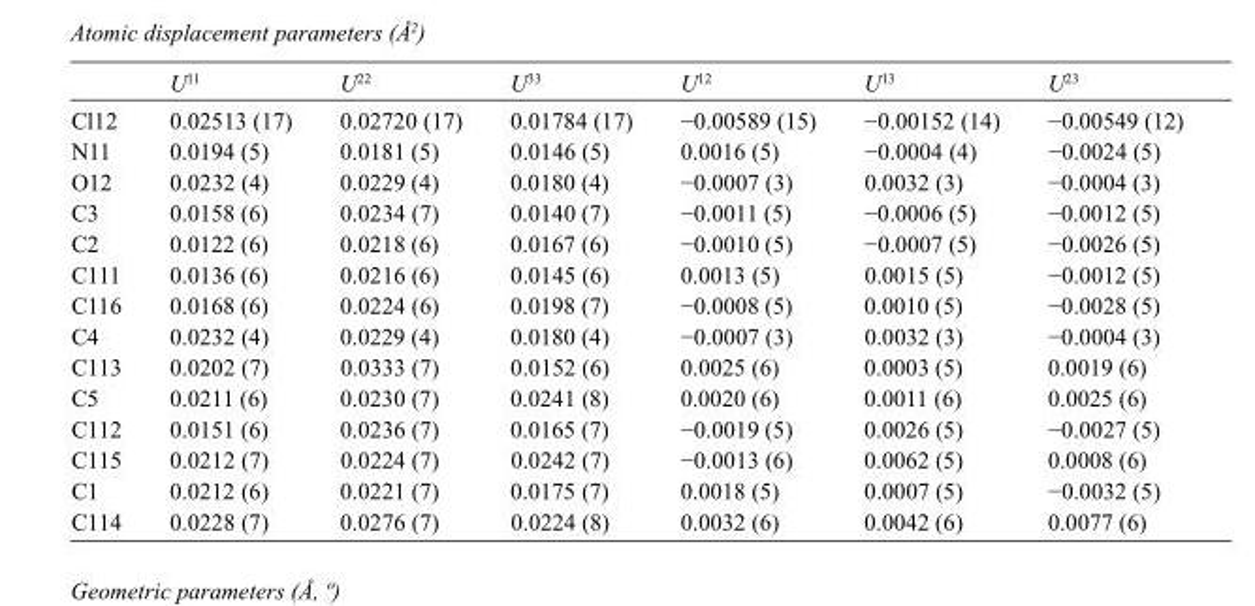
<table><thead><tr><td></td><td>U<sup>11</sup></td><td>U<sup>22</sup></td><td>U<sup>33</sup></td><td>U<sup>12</sup></td><td>U<sup>13</sup></td><td>U<sup>23</sup></td></tr></thead><tbody><tr><td>Cl12</td><td>0.02513 (17)</td><td>0.02720 (17)</td><td>0.01784 (17)</td><td>−0.00589 (15)</td><td>−0.00152 (14)</td><td>−0.00549 (12)</td></tr><tr><td>N11</td><td>0.0194 (5)</td><td>0.0181 (5)</td><td>0.0146 (5)</td><td>0.0016 (5)</td><td>−0.0004 (4)</td><td>−0.0024 (5)</td></tr><tr><td>O12</td><td>0.0232 (4)</td><td>0.0229 (4)</td><td>0.0180 (4)</td><td>−0.0007 (3)</td><td>0.0032 (3)</td><td>−0.0004 (3)</td></tr><tr><td>C3</td><td>0.0158 (6)</td><td>0.0234 (7)</td><td>0.0140 (7)</td><td>−0.0011 (5)</td><td>−0.0006 (5)</td><td>−0.0012 (5)</td></tr><tr><td>C2</td><td>0.0122 (6)</td><td>0.0218 (6)</td><td>0.0167 (6)</td><td>−0.0010 (5)</td><td>−0.0007 (5)</td><td>−0.0026 (5)</td></tr><tr><td>C111</td><td>0.0136 (6)</td><td>0.0216 (6)</td><td>0.0145 (6)</td><td>0.0013 (5)</td><td>0.0015 (5)</td><td>−0.0012 (5)</td></tr><tr><td>C116</td><td>0.0168 (6)</td><td>0.0224 (6)</td><td>0.0198 (7)</td><td>−0.0008 (5)</td><td>0.0010 (5)</td><td>−0.0028 (5)</td></tr><tr><td>C4</td><td>0.0232 (4)</td><td>0.0229 (4)</td><td>0.0180 (4)</td><td>−0.0007 (3)</td><td>0.0032 (3)</td><td>−0.0004 (3)</td></tr><tr><td>C113</td><td>0.0202 (7)</td><td>0.0333 (7)</td><td>0.0152 (6)</td><td>0.0025 (6)</td><td>0.0003 (5)</td><td>0.0019 (6)</td></tr><tr><td>C5</td><td>0.0211 (6)</td><td>0.0230 (7)</td><td>0.0241 (8)</td><td>0.0020 (6)</td><td>0.0011 (6)</td><td>0.0025 (6)</td></tr><tr><td>C112</td><td>0.0151 (6)</td><td>0.0236 (7)</td><td>0.0165 (7)</td><td>−0.0019 (5)</td><td>0.0026 (5)</td><td>−0.0027 (5)</td></tr><tr><td>C115</td><td>0.0212 (7)</td><td>0.0224 (7)</td><td>0.0242 (7)</td><td>−0.0013 (6)</td><td>0.0062 (5)</td><td>0.0008 (6)</td></tr><tr><td>C1</td><td>0.0212 (6)</td><td>0.0221 (7)</td><td>0.0175 (7)</td><td>0.0018 (5)</td><td>0.0007 (5)</td><td>−0.0032 (5)</td></tr><tr><td>C114</td><td>0.0228 (7)</td><td>0.0276 (7)</td><td>0.0224 (8)</td><td>0.0032 (6)</td><td>0.0042 (6)</td><td>0.0077 (6)</td></tr></tbody></table>